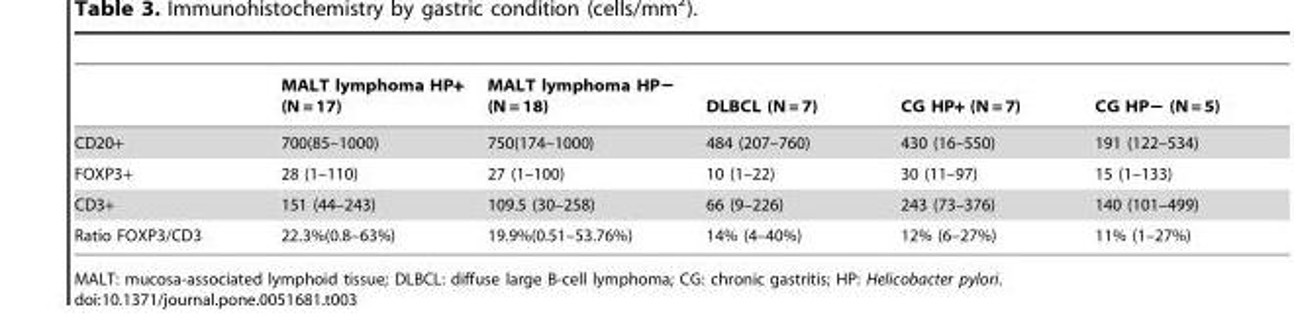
<table><thead><tr><td></td><td>MALT lymphoma HP+ (N = 17)</td><td>MALT lymphoma HP− (N = 18)</td><td>DLBCL (N = 7)</td><td>CG HP+ (N = 7)</td><td>CG HP− (N = 5)</td></tr></thead><tbody><tr><td>CD20+</td><td>700(85–1000)</td><td>750(174–1000)</td><td>484 (207–760)</td><td>430 (16–550)</td><td>191 (122–534)</td></tr><tr><td>FOXP3+</td><td>28 (1–110)</td><td>27 (1–100)</td><td>10 (1–22)</td><td>30 (11–97)</td><td>15 (1–133)</td></tr><tr><td>CD3+</td><td>151 (44–243)</td><td>109.5 (30–258)</td><td>66 (9–226)</td><td>243 (73–376)</td><td>140 (101–499)</td></tr><tr><td>Ratio FOXP3/CD3</td><td>22.3%(0.8–63%)</td><td>19.9%(0.51–53.76%)</td><td>14% (4–40%)</td><td>12% (6–27%)</td><td>11% (1–27%)</td></tr></tbody></table>